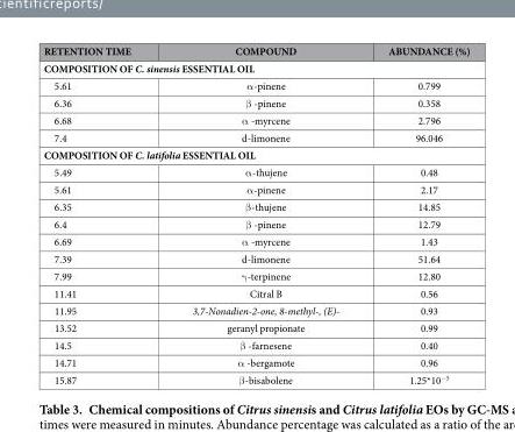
<table><thead><tr><td>RETENTION TIME</td><td>COMPOUND</td><td>ABUNDANCE (%)</td></tr></thead><tbody><tr><td colspan="3">COMPOSITION OF C. sinensis ESSENTIAL OIL</td></tr><tr><td>5.61</td><td>α -pinene</td><td>0.799</td></tr><tr><td>6.36</td><td>β -pinene</td><td>0.358</td></tr><tr><td>6.68</td><td>α -myrcene</td><td>2.796</td></tr><tr><td>7.4</td><td>d-limonene</td><td>96.046</td></tr><tr><td colspan="3">COMPOSITION OF C. latifolia ESSENTIAL OIL</td></tr><tr><td>5.49</td><td>α -thujene</td><td>0.48</td></tr><tr><td>5.61</td><td>α -pinene</td><td>2.17</td></tr><tr><td>6.35</td><td>β -thujene</td><td>14.85</td></tr><tr><td>6.4</td><td>β -pinene</td><td>12.79</td></tr><tr><td>6.69</td><td>α -myrcene</td><td>1.43</td></tr><tr><td>7.39</td><td>d-limonene</td><td>51.64</td></tr><tr><td>7.99</td><td>γ -terpinene</td><td>12.80</td></tr><tr><td>11.41</td><td>Citral B</td><td>0.56</td></tr><tr><td>11.95</td><td>3,7-Nonadien-2-one, 8-methyl-, (E)-</td><td>0.93</td></tr><tr><td>13.52</td><td>geranyl propionate</td><td>0.99</td></tr><tr><td>14.5</td><td>β -farnesene</td><td>0.40</td></tr><tr><td>14.71</td><td>α -bergamote</td><td>0.96</td></tr><tr><td>15.87</td><td>β -bisabolene</td><td>1.25*10<sup>−5</sup></td></tr></tbody></table>